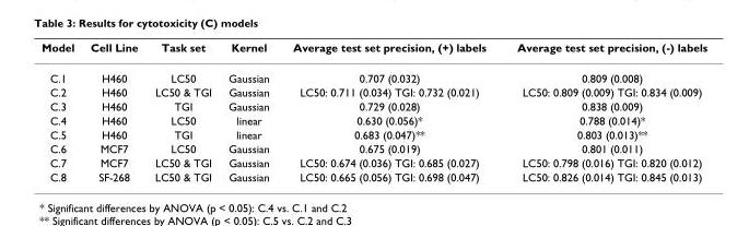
<table><thead><tr><td>Model</td><td>Cell Line</td><td>Task set</td><td>Kernel</td><td>Average test set precision, (+) labels</td><td>Average test set precision, (-) labels</td></tr></thead><tbody><tr><td>C.1</td><td>H460</td><td>LC50</td><td>Gaussian</td><td>0.707 (0.032)</td><td>0.809 (0.008)</td></tr><tr><td>C.2</td><td>H460</td><td>LC50 &amp; TGI</td><td>Gaussian</td><td>LC50: 0.711 (0.034) TGI: 0.732 (0.021)</td><td>LC50: 0.809 (0.009) TGI: 0.834 (0.009)</td></tr><tr><td>C.3</td><td>H460</td><td>TGI</td><td>Gaussian</td><td>0.729 (0.028)</td><td>0.838 (0.009)</td></tr><tr><td>C.4</td><td>H460</td><td>LC50</td><td>linear</td><td>0.630 (0.056)*</td><td>0.788 (0.014)*</td></tr><tr><td>C.5</td><td>H460</td><td>TGI</td><td>linear</td><td>0.683 (0.047)**</td><td>0.803 (0.013)**</td></tr><tr><td>C.6</td><td>MCF7</td><td>LC50</td><td>Gaussian</td><td>0.675 (0.019)</td><td>0.801 (0.011)</td></tr><tr><td>C.7</td><td>MCF7</td><td>LC50 &amp; TGI</td><td>Gaussian</td><td>LC50: 0.674 (0.036) TGI: 0.685 (0.027)</td><td>LC50: 0.798 (0.016) TGI: 0.820 (0.012)</td></tr><tr><td>C.8</td><td>SF-268</td><td>LC50 &amp; TGI</td><td>Gaussian</td><td>LC50: 0.665 (0.056) TGI: 0.698 (0.047)</td><td>LC50: 0.826 (0.014) TGI: 0.845 (0.013)</td></tr></tbody></table>